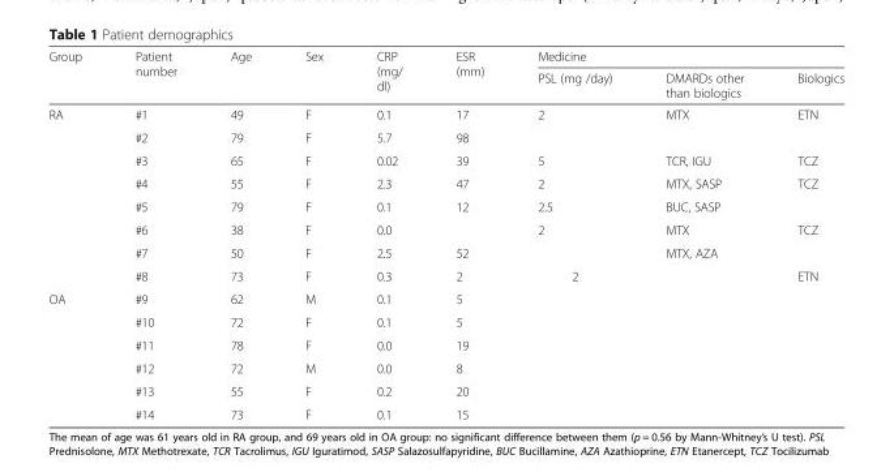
<table><thead><tr><td rowspan="2">Group</td><td rowspan="2">Patient number</td><td rowspan="2">Age</td><td rowspan="2">Sex</td><td rowspan="2">CRP (mg/ dl)</td><td rowspan="2">ESR (mm)</td><td colspan="3">Medicine</td></tr><tr><td>PSL (mg /day)</td><td>DMARDs other than biologics</td><td>Biologics</td></tr></thead><tbody><tr><td rowspan="8">RA</td><td>#1</td><td>49</td><td>F</td><td>0.1</td><td>17</td><td>2</td><td>MTX</td><td>ETN</td></tr><tr><td>#2</td><td>79</td><td>F</td><td>5.7</td><td>98</td><td></td><td></td><td></td></tr><tr><td>#3</td><td>65</td><td>F</td><td>0.02</td><td>39</td><td>5</td><td>TCR, IGU</td><td>TCZ</td></tr><tr><td>#4</td><td>55</td><td>F</td><td>2.3</td><td>47</td><td>2</td><td>MTX, SASP</td><td>TCZ</td></tr><tr><td>#5</td><td>79</td><td>F</td><td>0.1</td><td>12</td><td>2.5</td><td>BUC, SASP</td><td></td></tr><tr><td>#6</td><td>38</td><td>F</td><td>0.0</td><td></td><td>2</td><td>MTX</td><td>TCZ</td></tr><tr><td>#7</td><td>50</td><td>F</td><td>2.5</td><td>52</td><td></td><td>MTX, AZA</td><td></td></tr><tr><td>#8</td><td>73</td><td>F</td><td>0.3</td><td>2</td><td>2</td><td></td><td>ETN</td></tr><tr><td rowspan="6">OA</td><td>#9</td><td>62</td><td>M</td><td>0.1</td><td>5</td><td colspan="3"></td></tr><tr><td>#10</td><td>72</td><td>F</td><td>0.1</td><td>5</td><td colspan="3"></td></tr><tr><td>#11</td><td>78</td><td>F</td><td>0.0</td><td>19</td><td colspan="3"></td></tr><tr><td>#12</td><td>72</td><td>M</td><td>0.0</td><td>8</td><td colspan="3"></td></tr><tr><td>#13</td><td>55</td><td>F</td><td>0.2</td><td>20</td><td colspan="3"></td></tr><tr><td>#14</td><td>73</td><td>F</td><td>0.1</td><td>15</td><td colspan="3"></td></tr></tbody></table>